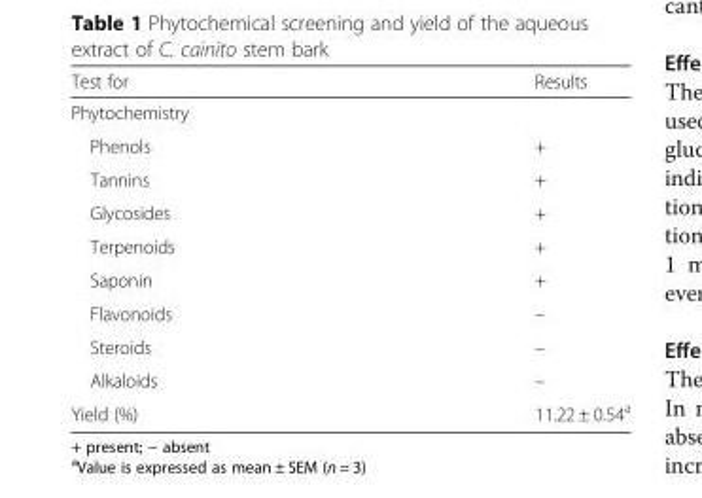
<table><thead><tr><td>Test for</td><td>Results</td></tr></thead><tbody><tr><td colspan="2">Phytochemistry</td></tr><tr><td>Phenols</td><td>+</td></tr><tr><td>Tannins</td><td>+</td></tr><tr><td>Glycosides</td><td>+</td></tr><tr><td>Terpenoids</td><td>+</td></tr><tr><td>Saponin</td><td>+</td></tr><tr><td>Flavonoids</td><td>–</td></tr><tr><td>Steroids</td><td>–</td></tr><tr><td>Alkaloids</td><td>–</td></tr><tr><td>Yield (%)</td><td>11.22 ± 0.54<sup>a</sup></td></tr></tbody></table>